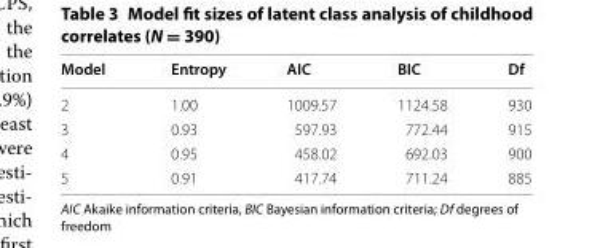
<table><thead><tr><td>Model</td><td>Entropy</td><td>AIC</td><td>BIC</td><td>Df</td></tr></thead><tbody><tr><td>2</td><td>1.00</td><td>1009.57</td><td>1124.58</td><td>930</td></tr><tr><td>3</td><td>0.93</td><td>597.93</td><td>772.44</td><td>915</td></tr><tr><td>4</td><td>0.95</td><td>458.02</td><td>692.03</td><td>900</td></tr><tr><td>5</td><td>0.91</td><td>417.74</td><td>711.24</td><td>885</td></tr></tbody></table>